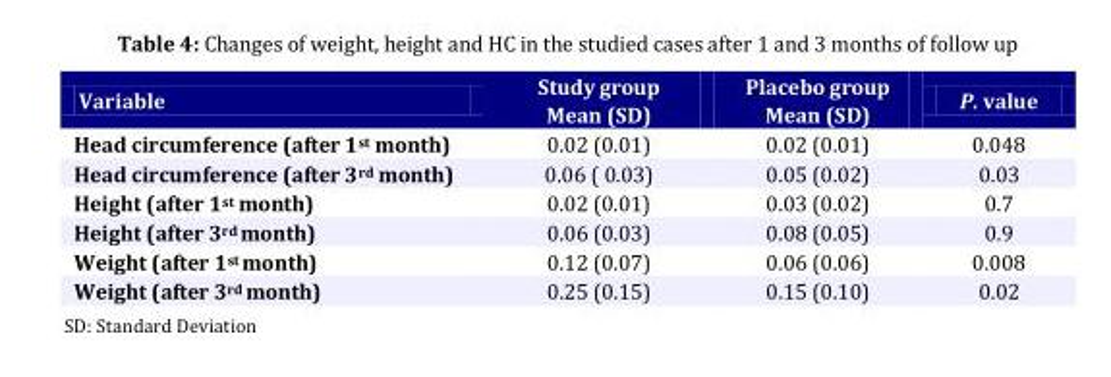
<table><thead><tr><td>Variable</td><td>Study group Mean (SD)</td><td>Placebo group Mean (SD)</td><td>P. value</td></tr></thead><tbody><tr><td>Head circumference (after 1<sup>st</sup> month)</td><td>0.02 (0.01)</td><td>0.02 (0.01)</td><td>0.048</td></tr><tr><td>Head circumference (after 3<sup>rd</sup> month)</td><td>0.06 ( 0.03)</td><td>0.05 (0.02)</td><td>0.03</td></tr><tr><td>Height (after 1<sup>st</sup> month)</td><td>0.02 (0.01)</td><td>0.03 (0.02)</td><td>0.7</td></tr><tr><td>Height (after 3<sup>rd</sup> month)</td><td>0.06 (0.03)</td><td>0.08 (0.05)</td><td>0.9</td></tr><tr><td>Weight (after 1<sup>st</sup> month)</td><td>0.12 (0.07)</td><td>0.06 (0.06)</td><td>0.008</td></tr><tr><td>Weight (after 3<sup>rd</sup> month)</td><td>0.25 (0.15)</td><td>0.15 (0.10)</td><td>0.02</td></tr></tbody></table>